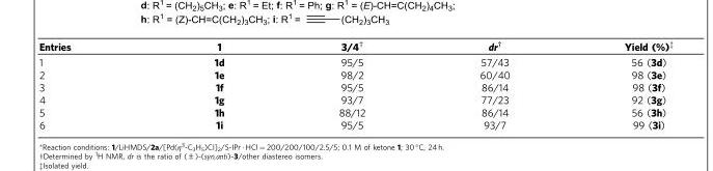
<table><tbody><tr><td>Entries</td><td>1</td><td>3/4†</td><td>dr†</td><td>Yield (%)‡</td></tr><tr><td>1</td><td>1d</td><td>95/5</td><td>57/43</td><td>56 (3d)</td></tr><tr><td>2</td><td>1e</td><td>98/2</td><td>60/40</td><td>98 (3e)</td></tr><tr><td>3</td><td>1f</td><td>95/5</td><td>86/14</td><td>98 (3f)</td></tr><tr><td>4</td><td>1g</td><td>93/7</td><td>77/23</td><td>92 (3g)</td></tr><tr><td>5</td><td>1h</td><td>88/12</td><td>86/14</td><td>56 (3h)</td></tr><tr><td>6</td><td>1i</td><td>95/5</td><td>93/7</td><td>99 (3i)</td></tr></tbody></table>